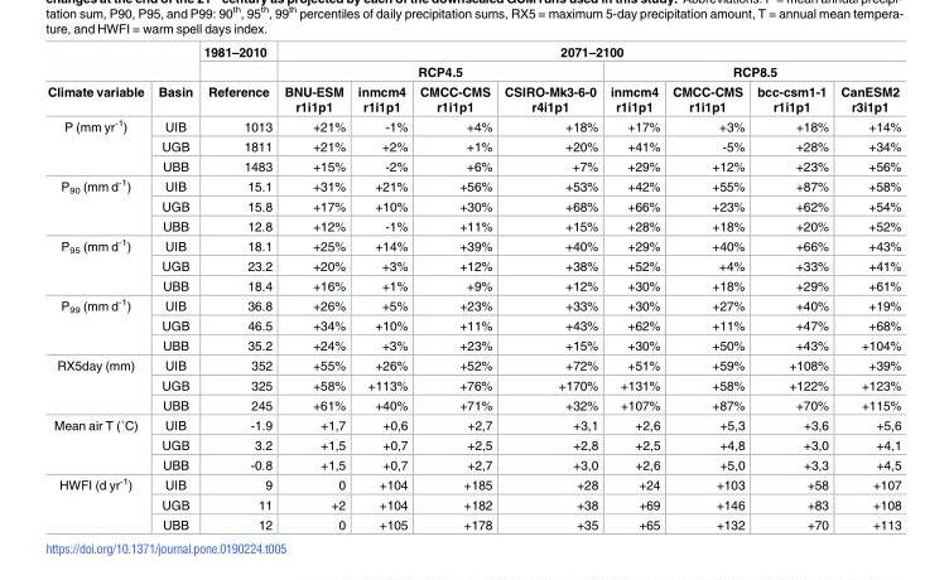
<table><thead><tr><td rowspan="3">Climate variable</td><td rowspan="3">Basin</td><td rowspan="3">1981–2010 Reference</td><td colspan="8">2071–2100</td></tr><tr><td colspan="4">RCP4.5</td><td colspan="4">RCP8.5</td></tr><tr><td>BNU-ESM r1i1p1</td><td>inmcm4 r1i1p1</td><td>CMCC-CMS r1i1p1</td><td>CSIRO-Mk3-6-0 r4i1p1</td><td>inmcm4 r1i1p1</td><td>CMCC-CMS r1i1p1</td><td>bcc-csm1-1 r1i1p1</td><td>CanESM2 r3i1p1</td></tr></thead><tbody><tr><td rowspan="3">P (mm yr<sup>-1</sup>)</td><td>UIB</td><td>1013</td><td>+21%</td><td>-1%</td><td>+4%</td><td>+18%</td><td>+17%</td><td>+3%</td><td>+18%</td><td>+14%</td></tr><tr><td>UGB</td><td>1811</td><td>+21%</td><td>+2%</td><td>+1%</td><td>+20%</td><td>+41%</td><td>-5%</td><td>+28%</td><td>+34%</td></tr><tr><td>UBB</td><td>1483</td><td>+15%</td><td>-2%</td><td>+6%</td><td>+7%</td><td>+29%</td><td>+12%</td><td>+23%</td><td>+56%</td></tr><tr><td rowspan="3">P<sub>90</sub> (mm d<sup>-1</sup>)</td><td>UIB</td><td>15.1</td><td>+31%</td><td>+21%</td><td>+56%</td><td>+53%</td><td>+42%</td><td>+55%</td><td>+87%</td><td>+58%</td></tr><tr><td>UGB</td><td>15.8</td><td>+17%</td><td>+10%</td><td>+30%</td><td>+68%</td><td>+66%</td><td>+23%</td><td>+62%</td><td>+54%</td></tr><tr><td>UBB</td><td>12.8</td><td>+12%</td><td>-1%</td><td>+11%</td><td>+15%</td><td>+28%</td><td>+18%</td><td>+20%</td><td>+52%</td></tr><tr><td rowspan="3">P<sub>95</sub> (mm d<sup>-1</sup>)</td><td>UIB</td><td>18.1</td><td>+25%</td><td>+14%</td><td>+39%</td><td>+40%</td><td>+29%</td><td>+40%</td><td>+66%</td><td>+43%</td></tr><tr><td>UGB</td><td>23.2</td><td>+20%</td><td>+3%</td><td>+12%</td><td>+38%</td><td>+52%</td><td>+4%</td><td>+33%</td><td>+41%</td></tr><tr><td>UBB</td><td>18.4</td><td>+16%</td><td>+1%</td><td>+9%</td><td>+12%</td><td>+30%</td><td>+18%</td><td>+29%</td><td>+61%</td></tr><tr><td rowspan="3">P<sub>99</sub> (mm d<sup>-1</sup>)</td><td>UIB</td><td>36.8</td><td>+26%</td><td>+5%</td><td>+23%</td><td>+33%</td><td>+30%</td><td>+27%</td><td>+40%</td><td>+19%</td></tr><tr><td>UGB</td><td>46.5</td><td>+34%</td><td>+10%</td><td>+11%</td><td>+43%</td><td>+62%</td><td>+11%</td><td>+47%</td><td>+68%</td></tr><tr><td>UBB</td><td>35.2</td><td>+24%</td><td>+3%</td><td>+23%</td><td>+15%</td><td>+30%</td><td>+50%</td><td>+43%</td><td>+104%</td></tr><tr><td rowspan="3">RX5day (mm)</td><td>UIB</td><td>352</td><td>+55%</td><td>+26%</td><td>+52%</td><td>+72%</td><td>+51%</td><td>+59%</td><td>+108%</td><td>+39%</td></tr><tr><td>UGB</td><td>325</td><td>+58%</td><td>+113%</td><td>+76%</td><td>+170%</td><td>+131%</td><td>+58%</td><td>+122%</td><td>+123%</td></tr><tr><td>UBB</td><td>245</td><td>+61%</td><td>+40%</td><td>+71%</td><td>+32%</td><td>+107%</td><td>+87%</td><td>+70%</td><td>+115%</td></tr><tr><td rowspan="3">Mean air T (˚C)</td><td>UIB</td><td>-1.9</td><td>+1,7</td><td>+0,6</td><td>+2,7</td><td>+3,1</td><td>+2,6</td><td>+5,3</td><td>+3,6</td><td>+5,6</td></tr><tr><td>UGB</td><td>3.2</td><td>+1,5</td><td>+0,7</td><td>+2,5</td><td>+2,8</td><td>+2,5</td><td>+4,8</td><td>+3,0</td><td>+4,1</td></tr><tr><td>UBB</td><td>-0.8</td><td>+1,5</td><td>+0,7</td><td>+2,7</td><td>+3,0</td><td>+2,6</td><td>+5,0</td><td>+3,3</td><td>+4,5</td></tr><tr><td rowspan="3">HWFI (d yr<sup>-1</sup>)</td><td>UIB</td><td>9</td><td>0</td><td>+104</td><td>+185</td><td>+28</td><td>+24</td><td>+103</td><td>+58</td><td>+107</td></tr><tr><td>UGB</td><td>11</td><td>+2</td><td>+104</td><td>+182</td><td>+38</td><td>+69</td><td>+146</td><td>+83</td><td>+108</td></tr><tr><td>UBB</td><td>12</td><td>0</td><td>+105</td><td>+178</td><td>+35</td><td>+65</td><td>+132</td><td>+70</td><td>+113</td></tr></tbody></table>